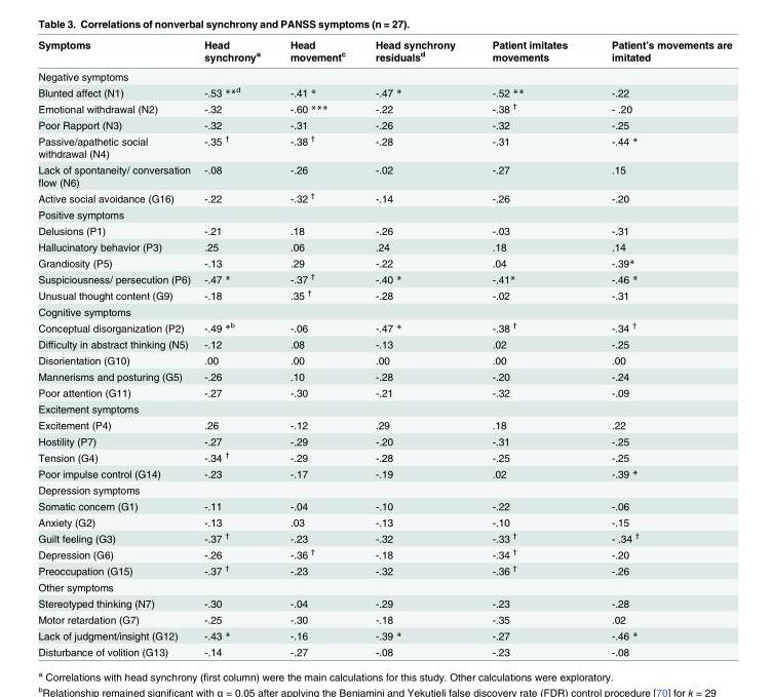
<table><thead><tr><td>Symptoms</td><td>Head synchrony<sup>a</sup></td><td>Head movement<sup>c</sup></td><td>Head synchrony residuals<sup>d</sup></td><td>Patient imitates movements</td><td>Patient’s movements are imitated</td></tr></thead><tbody><tr><td colspan="6">Negative symptoms</td></tr><tr><td>Blunted affect (N1)</td><td>-.53 **<sup>d</sup></td><td>-.41 *</td><td>-.47 *</td><td>-.52 **</td><td>-.22</td></tr><tr><td>Emotional withdrawal (N2)</td><td>-.32</td><td>-.60 ***</td><td>-.22</td><td>-.38 <sup>†</sup></td><td>- .20</td></tr><tr><td>Poor Rapport (N3)</td><td>-.32</td><td>-.31</td><td>-.26</td><td>-.32</td><td>-.25</td></tr><tr><td>Passive/apathetic social withdrawal (N4)</td><td>-.35 <sup>†</sup></td><td>-.38 <sup>†</sup></td><td>-.28</td><td>-.31</td><td>-.44 *</td></tr><tr><td>Lack of spontaneity/ conversation flow (N6)</td><td>-.08</td><td>-.26</td><td>-.02</td><td>-.27</td><td>.15</td></tr><tr><td>Active social avoidance (G16)</td><td>-.22</td><td>-.32 <sup>†</sup></td><td>-.14</td><td>-.26</td><td>-.20</td></tr><tr><td colspan="6">Positive symptoms</td></tr><tr><td>Delusions (P1)</td><td>-.21</td><td>.18</td><td>-.26</td><td>-.03</td><td>-.31</td></tr><tr><td>Hallucinatory behavior (P3)</td><td>.25</td><td>.06</td><td>.24</td><td>.18</td><td>.14</td></tr><tr><td>Grandiosity (P5)</td><td>-.13</td><td>.29</td><td>-.22</td><td>.04</td><td>-.39*</td></tr><tr><td>Suspiciousness/ persecution (P6)</td><td>-.47 *</td><td>-.37 <sup>†</sup></td><td>-.40 *</td><td>-.41*</td><td>-.46 *</td></tr><tr><td>Unusual thought content (G9)</td><td>-.18</td><td>.35 <sup>†</sup></td><td>-.28</td><td>-.02</td><td>-.31</td></tr><tr><td colspan="6">Cognitive symptoms</td></tr><tr><td>Conceptual disorganization (P2)</td><td>-.49 *<sup>b</sup></td><td>-.06</td><td>-.47 *</td><td>-.38 <sup>†</sup></td><td>-.34 <sup>†</sup></td></tr><tr><td>Difficulty in abstract thinking (N5)</td><td>-.12</td><td>.08</td><td>-.13</td><td>.02</td><td>-.25</td></tr><tr><td>Disorientation (G10)</td><td>.00</td><td>.00</td><td>.00</td><td>.00</td><td>.00</td></tr><tr><td>Mannerisms and posturing (G5)</td><td>-.26</td><td>.10</td><td>-.28</td><td>-.20</td><td>-.24</td></tr><tr><td>Poor attention (G11)</td><td>-.27</td><td>-.30</td><td>-.21</td><td>-.32</td><td>-.09</td></tr><tr><td colspan="6">Excitement symptoms</td></tr><tr><td>Excitement (P4)</td><td>.26</td><td>-.12</td><td>.29</td><td>.18</td><td>.22</td></tr><tr><td>Hostility (P7)</td><td>-.27</td><td>-.29</td><td>-.20</td><td>-.31</td><td>-.25</td></tr><tr><td>Tension (G4)</td><td>-.34 <sup>†</sup></td><td>-.29</td><td>-.28</td><td>-.25</td><td>-.25</td></tr><tr><td>Poor impulse control (G14)</td><td>-.23</td><td>-.17</td><td>-.19</td><td>.02</td><td>-.39 *</td></tr><tr><td colspan="6">Depression symptoms</td></tr><tr><td>Somatic concern (G1)</td><td>-.11</td><td>-.04</td><td>-.10</td><td>-.22</td><td>-.06</td></tr><tr><td>Anxiety (G2)</td><td>-.13</td><td>.03</td><td>-.13</td><td>-.10</td><td>-.15</td></tr><tr><td>Guilt feeling (G3)</td><td>-.37 <sup>†</sup></td><td>-.23</td><td>-.32</td><td>-.33 <sup>†</sup></td><td>- .34 <sup>†</sup></td></tr><tr><td>Depression (G6)</td><td>-.26</td><td>-.36 <sup>†</sup></td><td>-.18</td><td>-.34 <sup>†</sup></td><td>-.20</td></tr><tr><td>Preoccupation (G15)</td><td>-.37 <sup>†</sup></td><td>-.23</td><td>-.32</td><td>-.36 <sup>†</sup></td><td>-.26</td></tr><tr><td colspan="6">Other symptoms</td></tr><tr><td>Stereotyped thinking (N7)</td><td>-.30</td><td>-.04</td><td>-.29</td><td>-.23</td><td>-.28</td></tr><tr><td>Motor retardation (G7)</td><td>-.25</td><td>-.30</td><td>-.18</td><td>-.35</td><td>.02</td></tr><tr><td>Lack of judgment/insight (G12)</td><td>-.43 *</td><td>-.16</td><td>-.39 *</td><td>-.27</td><td>-.46 *</td></tr><tr><td>Disturbance of volition (G13)</td><td>-.14</td><td>-.27</td><td>-.08</td><td>-.23</td><td>-.08</td></tr></tbody></table>